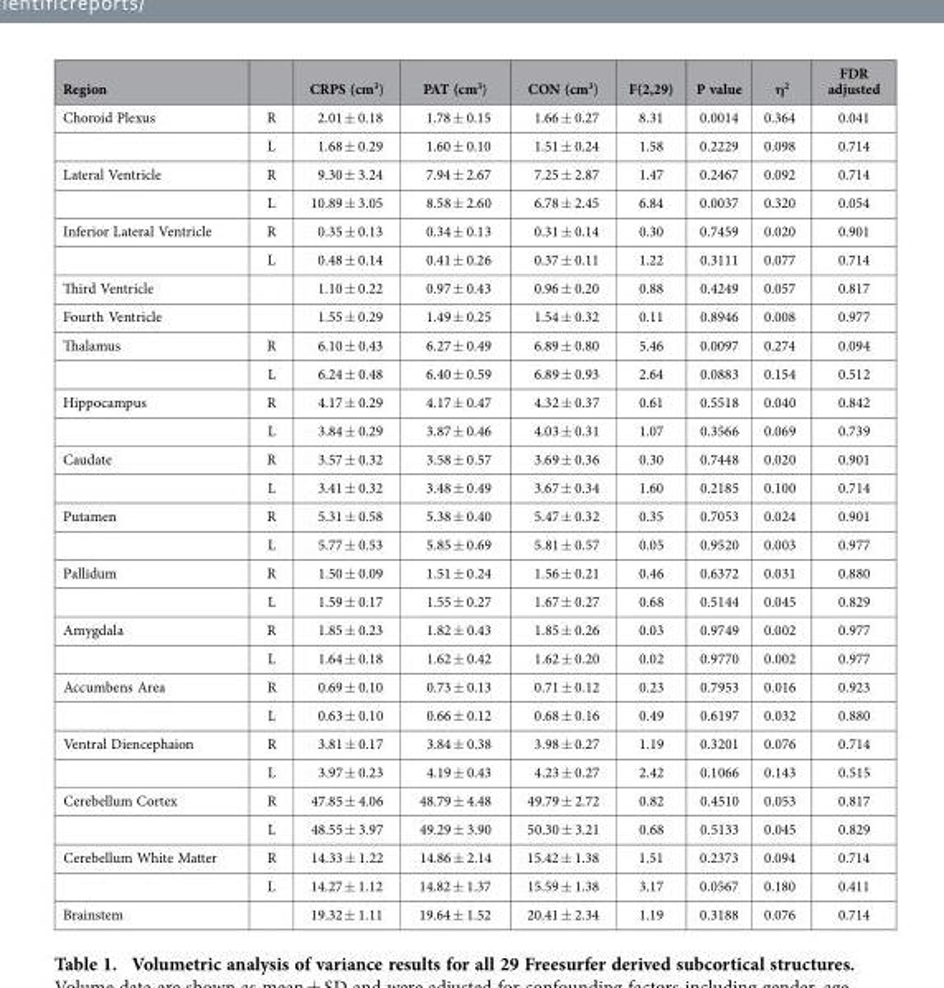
<table><thead><tr><td>Region</td><td></td><td>CRPS (cm<sup>3</sup>)</td><td>PAT (cm<sup>3</sup>)</td><td>CON (cm<sup>3</sup>)</td><td>F(2,29)</td><td>P value</td><td>η<sup>2</sup></td><td>FDR adjusted</td></tr></thead><tbody><tr><td rowspan="2">Choroid Plexus</td><td>R</td><td>2.01 ± 0.18</td><td>1.78 ± 0.15</td><td>1.66 ± 0.27</td><td>8.31</td><td>0.0014</td><td>0.364</td><td>0.041</td></tr><tr><td>L</td><td>1.68 ± 0.29</td><td>1.60 ± 0.10</td><td>1.51 ± 0.24</td><td>1.58</td><td>0.2229</td><td>0.098</td><td>0.714</td></tr><tr><td rowspan="2">Lateral Ventricle</td><td>R</td><td>9.30 ± 3.24</td><td>7.94 ± 2.67</td><td>7.25 ± 2.87</td><td>1.47</td><td>0.2467</td><td>0.092</td><td>0.714</td></tr><tr><td>L</td><td>10.89 ± 3.05</td><td>8.58 ± 2.60</td><td>6.78 ± 2.45</td><td>6.84</td><td>0.0037</td><td>0.320</td><td>0.054</td></tr><tr><td rowspan="2">Inferior Lateral Ventricle</td><td>R</td><td>0.35 ± 0.13</td><td>0.34 ± 0.13</td><td>0.31 ± 0.14</td><td>0.30</td><td>0.7459</td><td>0.020</td><td>0.901</td></tr><tr><td>L</td><td>0.48 ± 0.14</td><td>0.41 ± 0.26</td><td>0.37 ± 0.11</td><td>1.22</td><td>0.3111</td><td>0.077</td><td>0.714</td></tr><tr><td>Third Ventricle</td><td></td><td>1.10 ± 0.22</td><td>0.97 ± 0.43</td><td>0.96 ± 0.20</td><td>0.88</td><td>0.4249</td><td>0.057</td><td>0.817</td></tr><tr><td>Fourth Ventricle</td><td></td><td>1.55 ± 0.29</td><td>1.49 ± 0.25</td><td>1.54 ± 0.32</td><td>0.11</td><td>0.8946</td><td>0.008</td><td>0.977</td></tr><tr><td rowspan="2">Thalamus</td><td>R</td><td>6.10 ± 0.43</td><td>6.27 ± 0.49</td><td>6.89 ± 0.80</td><td>5.46</td><td>0.0097</td><td>0.274</td><td>0.094</td></tr><tr><td>L</td><td>6.24 ± 0.48</td><td>6.40 ± 0.59</td><td>6.89 ± 0.93</td><td>2.64</td><td>0.0883</td><td>0.154</td><td>0.512</td></tr><tr><td rowspan="2">Hippocampus</td><td>R</td><td>4.17 ± 0.29</td><td>4.17 ± 0.47</td><td>4.32 ± 0.37</td><td>0.61</td><td>0.5518</td><td>0.040</td><td>0.842</td></tr><tr><td>L</td><td>3.84 ± 0.29</td><td>3.87 ± 0.46</td><td>4.03 ± 0.31</td><td>1.07</td><td>0.3566</td><td>0.069</td><td>0.739</td></tr><tr><td rowspan="2">Caudate</td><td>R</td><td>3.57 ± 0.32</td><td>3.58 ± 0.57</td><td>3.69 ± 0.36</td><td>0.30</td><td>0.7448</td><td>0.020</td><td>0.901</td></tr><tr><td>L</td><td>3.41 ± 0.32</td><td>3.48 ± 0.49</td><td>3.67 ± 0.34</td><td>1.60</td><td>0.2185</td><td>0.100</td><td>0.714</td></tr><tr><td rowspan="2">Putamen</td><td>R</td><td>5.31 ± 0.58</td><td>5.38 ± 0.40</td><td>5.47 ± 0.32</td><td>0.35</td><td>0.7053</td><td>0.024</td><td>0.901</td></tr><tr><td>L</td><td>5.77 ± 0.53</td><td>5.85 ± 0.69</td><td>5.81 ± 0.57</td><td>0.05</td><td>0.9520</td><td>0.003</td><td>0.977</td></tr><tr><td rowspan="2">Pallidum</td><td>R</td><td>1.50 ± 0.09</td><td>1.51 ± 0.24</td><td>1.56 ± 0.21</td><td>0.46</td><td>0.6372</td><td>0.031</td><td>0.880</td></tr><tr><td>L</td><td>1.59 ± 0.17</td><td>1.55 ± 0.27</td><td>1.67 ± 0.27</td><td>0.68</td><td>0.5144</td><td>0.045</td><td>0.829</td></tr><tr><td rowspan="2">Amygdala</td><td>R</td><td>1.85 ± 0.23</td><td>1.82 ± 0.43</td><td>1.85 ± 0.26</td><td>0.03</td><td>0.9749</td><td>0.002</td><td>0.977</td></tr><tr><td>L</td><td>1.64 ± 0.18</td><td>1.62 ± 0.42</td><td>1.62 ± 0.20</td><td>0.02</td><td>0.9770</td><td>0.002</td><td>0.977</td></tr><tr><td rowspan="2">Accumbens Area</td><td>R</td><td>0.69 ± 0.10</td><td>0.73 ± 0.13</td><td>0.71 ± 0.12</td><td>0.23</td><td>0.7953</td><td>0.016</td><td>0.923</td></tr><tr><td>L</td><td>0.63 ± 0.10</td><td>0.66 ± 0.12</td><td>0.68 ± 0.16</td><td>0.49</td><td>0.6197</td><td>0.032</td><td>0.880</td></tr><tr><td rowspan="2">Ventral Diencephaion</td><td>R</td><td>3.81 ± 0.17</td><td>3.84 ± 0.38</td><td>3.98 ± 0.27</td><td>1.19</td><td>0.3201</td><td>0.076</td><td>0.714</td></tr><tr><td>L</td><td>3.97 ± 0.23</td><td>4.19 ± 0.43</td><td>4.23 ± 0.27</td><td>2.42</td><td>0.1066</td><td>0.143</td><td>0.515</td></tr><tr><td rowspan="2">Cerebellum Cortex</td><td>R</td><td>47.85 ± 4.06</td><td>48.79 ± 4.48</td><td>49.79 ± 2.72</td><td>0.82</td><td>0.4510</td><td>0.053</td><td>0.817</td></tr><tr><td>L</td><td>48.55 ± 3.97</td><td>49.29 ± 3.90</td><td>50.30 ± 3.21</td><td>0.68</td><td>0.5133</td><td>0.045</td><td>0.829</td></tr><tr><td rowspan="2">Cerebellum White Matter</td><td>R</td><td>14.33 ± 1.22</td><td>14.86 ± 2.14</td><td>15.42 ± 1.38</td><td>1.51</td><td>0.2373</td><td>0.094</td><td>0.714</td></tr><tr><td>L</td><td>14.27 ± 1.12</td><td>14.82 ± 1.37</td><td>15.59 ± 1.38</td><td>3.17</td><td>0.0567</td><td>0.180</td><td>0.411</td></tr><tr><td>Brainstem</td><td></td><td>19.32 ± 1.11</td><td>19.64 ± 1.52</td><td>20.41 ± 2.34</td><td>1.19</td><td>0.3188</td><td>0.076</td><td>0.714</td></tr></tbody></table>